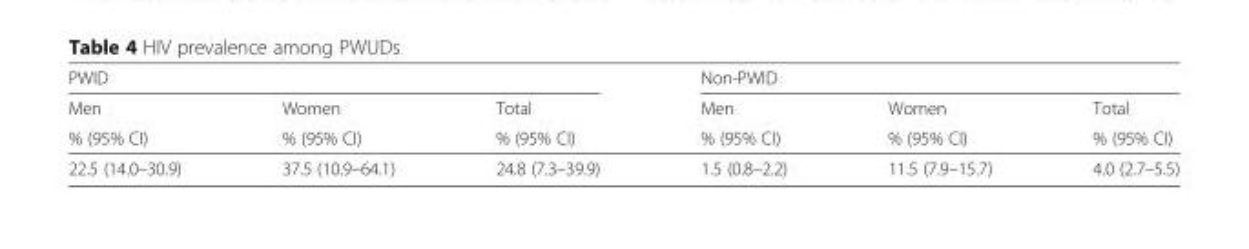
<table><thead><tr><td colspan="3">PWID</td><td colspan="3">Non-PWID</td></tr><tr><td rowspan="2">Men % (95% CI)</td><td rowspan="2">Women % (95% CI)</td><td rowspan="2">Total % (95% CI)</td><td rowspan="2">Men % (95% CI)</td><td rowspan="2">Women % (95% CI)</td><td rowspan="2">Total % (95% CI)</td></tr><tr></tr></thead><tbody><tr><td>22.5 (14.0–30.9)</td><td>37.5 (10.9–64.1)</td><td>24.8 (7.3–39.9)</td><td>1.5 (0.8–2.2)</td><td>11.5 (7.9–15.7)</td><td>4.0 (2.7–5.5)</td></tr></tbody></table>